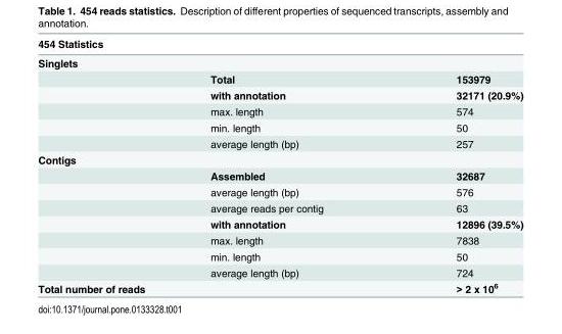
<table><thead><tr><td colspan="3">454 Statistics</td></tr><tr><td>Singlets</td><td></td><td></td></tr></thead><tbody><tr><td></td><td>Total</td><td>153979</td></tr><tr><td></td><td>with annotation</td><td>32171 (20.9%)</td></tr><tr><td></td><td>max. length</td><td>574</td></tr><tr><td></td><td>min. length</td><td>50</td></tr><tr><td></td><td>average length (bp)</td><td>257</td></tr><tr><td colspan="3">Contigs</td></tr><tr><td></td><td>Assembled</td><td>32687</td></tr><tr><td></td><td>average length (bp)</td><td>576</td></tr><tr><td></td><td>average reads per contig</td><td>63</td></tr><tr><td></td><td>with annotation</td><td>12896 (39.5%)</td></tr><tr><td></td><td>max. length</td><td>7838</td></tr><tr><td></td><td>min. length</td><td>50</td></tr><tr><td></td><td>average length (bp)</td><td>724</td></tr><tr><td colspan="2">Total number of reads</td><td>&gt; 2 x 10<sup>6</sup></td></tr></tbody></table>